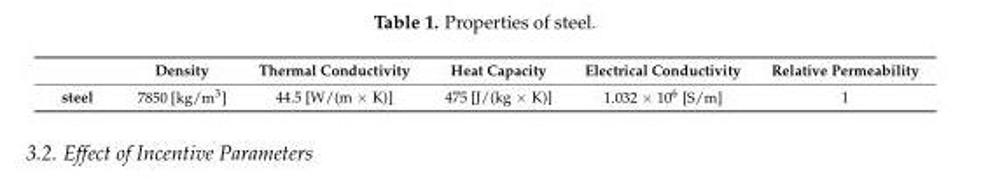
<table><thead><tr><td></td><td>Density</td><td>Thermal Conductivity</td><td>Heat Capacity</td><td>Electrical Conductivity</td><td>Relative Permeability</td></tr></thead><tbody><tr><td>steel</td><td>7850 [kg/m<sup>3</sup>]</td><td>44.5 [W/(m × K)]</td><td>475 [J/(kg × K)]</td><td>1.032 × 10<sup>6</sup> [S/m]</td><td>1</td></tr></tbody></table>